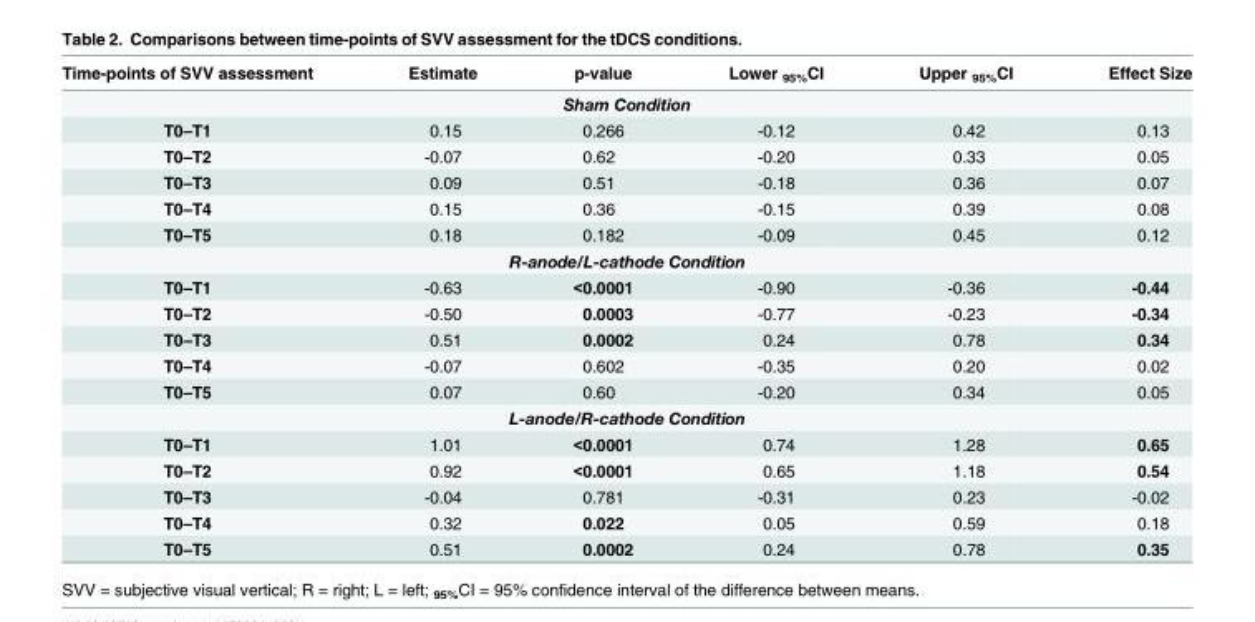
<table><thead><tr><td>Time-points of SVV assessment</td><td>Estimate</td><td>p-value</td><td>Lower <sub>95%</sub>CI</td><td>Upper <sub>95%</sub>CI</td><td>Effect Size</td></tr></thead><tbody><tr><td colspan="6">Sham Condition</td></tr><tr><td>T0–T1</td><td>0.15</td><td>0.266</td><td>-0.12</td><td>0.42</td><td>0.13</td></tr><tr><td>T0–T2</td><td>-0.07</td><td>0.62</td><td>-0.20</td><td>0.33</td><td>0.05</td></tr><tr><td>T0–T3</td><td>0.09</td><td>0.51</td><td>-0.18</td><td>0.36</td><td>0.07</td></tr><tr><td>T0–T4</td><td>0.15</td><td>0.36</td><td>-0.15</td><td>0.39</td><td>0.08</td></tr><tr><td>T0–T5</td><td>0.18</td><td>0.182</td><td>-0.09</td><td>0.45</td><td>0.12</td></tr><tr><td colspan="6">R-anode/L-cathode Condition</td></tr><tr><td>T0–T1</td><td>-0.63</td><td>&lt;0.0001</td><td>-0.90</td><td>-0.36</td><td>-0.44</td></tr><tr><td>T0–T2</td><td>-0.50</td><td>0.0003</td><td>-0.77</td><td>-0.23</td><td>-0.34</td></tr><tr><td>T0–T3</td><td>0.51</td><td>0.0002</td><td>0.24</td><td>0.78</td><td>0.34</td></tr><tr><td>T0–T4</td><td>-0.07</td><td>0.602</td><td>-0.35</td><td>0.20</td><td>0.02</td></tr><tr><td>T0–T5</td><td>0.07</td><td>0.60</td><td>-0.20</td><td>0.34</td><td>0.05</td></tr><tr><td colspan="6">L-anode/R-cathode Condition</td></tr><tr><td>T0–T1</td><td>1.01</td><td>&lt;0.0001</td><td>0.74</td><td>1.28</td><td>0.65</td></tr><tr><td>T0–T2</td><td>0.92</td><td>&lt;0.0001</td><td>0.65</td><td>1.18</td><td>0.54</td></tr><tr><td>T0–T3</td><td>-0.04</td><td>0.781</td><td>-0.31</td><td>0.23</td><td>-0.02</td></tr><tr><td>T0–T4</td><td>0.32</td><td>0.022</td><td>0.05</td><td>0.59</td><td>0.18</td></tr><tr><td>T0–T5</td><td>0.51</td><td>0.0002</td><td>0.24</td><td>0.78</td><td>0.35</td></tr></tbody></table>